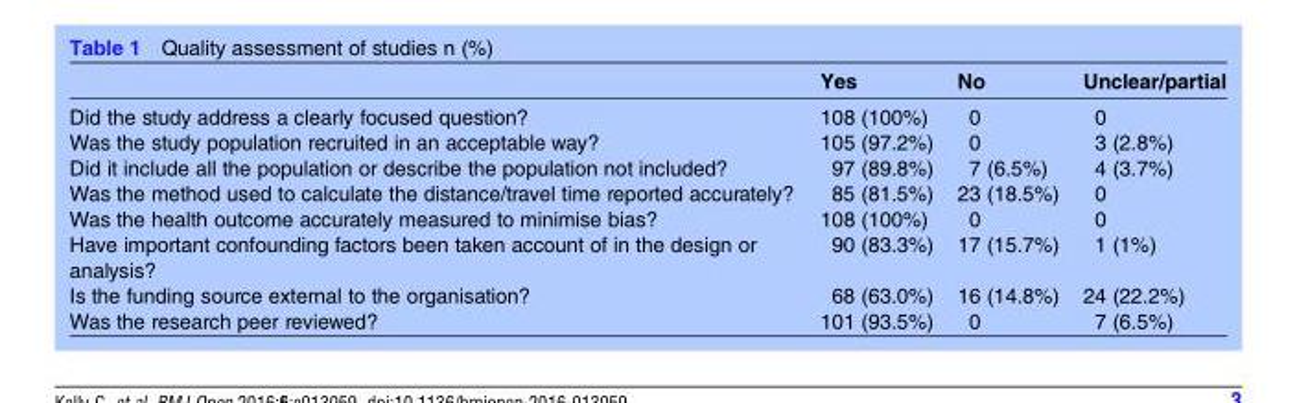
<table><thead><tr><td></td><td>Yes</td><td>No</td><td>Unclear/partial</td></tr></thead><tbody><tr><td>Did the study address a clearly focused question?</td><td>108 (100%)</td><td>0</td><td>0</td></tr><tr><td>Was the study population recruited in an acceptable way?</td><td>105 (97.2%)</td><td>0</td><td>3 (2.8%)</td></tr><tr><td>Did it include all the population or describe the population not included?</td><td>97 (89.8%)</td><td>7 (6.5%)</td><td>4 (3.7%)</td></tr><tr><td>Was the method used to calculate the distance/travel time reported accurately?</td><td>85 (81.5%)</td><td>23 (18.5%)</td><td>0</td></tr><tr><td>Was the health outcome accurately measured to minimise bias?</td><td>108 (100%)</td><td>0</td><td>0</td></tr><tr><td>Have important confounding factors been taken account of in the design or analysis?</td><td>90 (83.3%)</td><td>17 (15.7%)</td><td>1 (1%)</td></tr><tr><td>Is the funding source external to the organisation?</td><td>68 (63.0%)</td><td>16 (14.8%)</td><td>24 (22.2%)</td></tr><tr><td>Was the research peer reviewed?</td><td>101 (93.5%)</td><td>0</td><td>7 (6.5%)</td></tr></tbody></table>